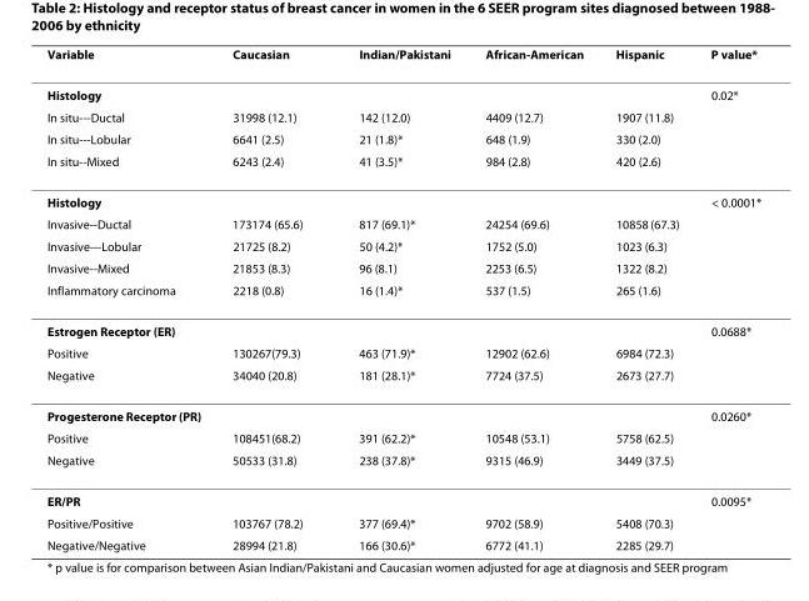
<table><thead><tr><td>Variable</td><td>Caucasian</td><td>Indian/Pakistani</td><td>African-American</td><td>Hispanic</td><td>P value*</td></tr></thead><tbody><tr><td>Histology</td><td></td><td></td><td></td><td></td><td>0.02*</td></tr><tr><td>In situ---Ductal</td><td>31998 (12.1)</td><td>142 (12.0)</td><td>4409 (12.7)</td><td>1907 (11.8)</td><td></td></tr><tr><td>In situ---Lobular</td><td>6641 (2.5)</td><td>21 (1.8)*</td><td>648 (1.9)</td><td>330 (2.0)</td><td></td></tr><tr><td>In situ--Mixed</td><td>6243 (2.4)</td><td>41 (3.5)*</td><td>984 (2.8)</td><td>420 (2.6)</td><td></td></tr><tr><td>Histology</td><td></td><td></td><td></td><td></td><td>&lt; 0.0001*</td></tr><tr><td>Invasive--Ductal</td><td>173174 (65.6)</td><td>817 (69.1)*</td><td>24254 (69.6)</td><td>10858 (67.3)</td><td></td></tr><tr><td>Invasive---Lobular</td><td>21725 (8.2)</td><td>50 (4.2)*</td><td>1752 (5.0)</td><td>1023 (6.3)</td><td></td></tr><tr><td>Invasive--Mixed</td><td>21853 (8.3)</td><td>96 (8.1)</td><td>2253 (6.5)</td><td>1322 (8.2)</td><td></td></tr><tr><td>Inflammatory carcinoma</td><td>2218 (0.8)</td><td>16 (1.4)*</td><td>537 (1.5)</td><td>265 (1.6)</td><td></td></tr><tr><td>Estrogen Receptor (ER)</td><td></td><td></td><td></td><td></td><td>0.0688*</td></tr><tr><td>Positive</td><td>130267(79.3)</td><td>463 (71.9)*</td><td>12902 (62.6)</td><td>6984 (72.3)</td><td></td></tr><tr><td>Negative</td><td>34040 (20.8)</td><td>181 (28.1)*</td><td>7724 (37.5)</td><td>2673 (27.7)</td><td></td></tr><tr><td>Progesterone Receptor (PR)</td><td></td><td></td><td></td><td></td><td>0.0260*</td></tr><tr><td>Positive</td><td>108451(68.2)</td><td>391 (62.2)*</td><td>10548 (53.1)</td><td>5758 (62.5)</td><td></td></tr><tr><td>Negative</td><td>50533 (31.8)</td><td>238 (37.8)*</td><td>9315 (46.9)</td><td>3449 (37.5)</td><td></td></tr><tr><td>ER/PR</td><td></td><td></td><td></td><td></td><td>0.0095*</td></tr><tr><td>Positive/Positive</td><td>103767 (78.2)</td><td>377 (69.4)*</td><td>9702 (58.9)</td><td>5408 (70.3)</td><td></td></tr><tr><td>Negative/Negative</td><td>28994 (21.8)</td><td>166 (30.6)*</td><td>6772 (41.1)</td><td>2285 (29.7)</td><td></td></tr></tbody></table>